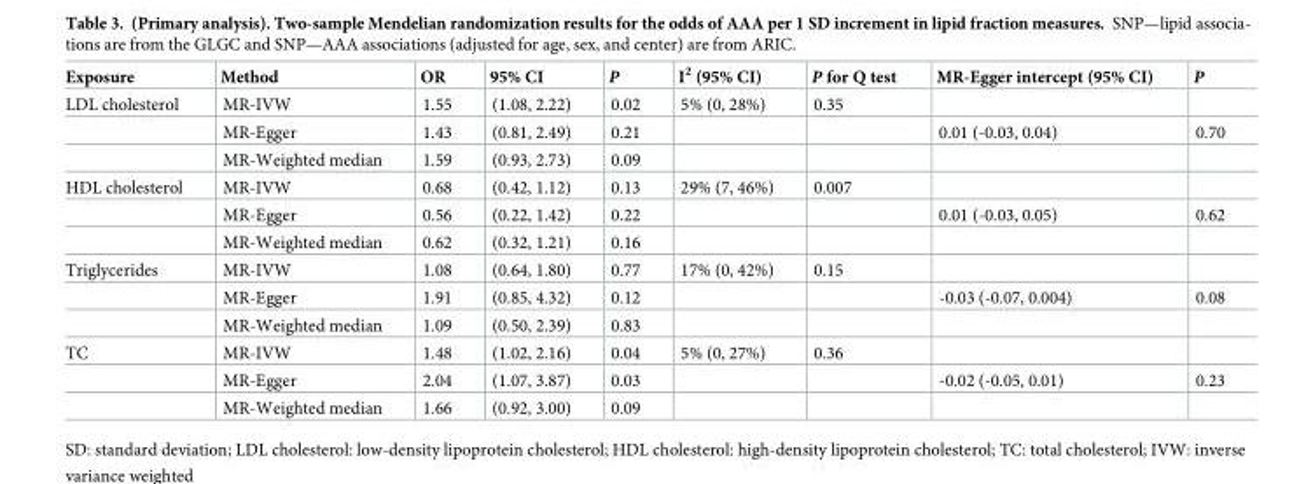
<table><thead><tr><td>Exposure</td><td>Method</td><td>OR</td><td>95% CI</td><td>P</td><td>I<sup>2</sup> (95% CI)</td><td>P for Q test</td><td>MR-Egger intercept (95% CI)</td><td>P</td></tr></thead><tbody><tr><td rowspan="3">LDL cholesterol</td><td>MR-IVW</td><td>1.55</td><td>(1.08, 2.22)</td><td>0.02</td><td>5% (0, 28%)</td><td>0.35</td><td></td><td></td></tr><tr><td>MR-Egger</td><td>1.43</td><td>(0.81, 2.49)</td><td>0.21</td><td></td><td></td><td>0.01 (-0.03, 0.04)</td><td>0.70</td></tr><tr><td>MR-Weighted median</td><td>1.59</td><td>(0.93, 2.73)</td><td>0.09</td><td></td><td></td><td></td><td></td></tr><tr><td rowspan="3">HDL cholesterol</td><td>MR-IVW</td><td>0.68</td><td>(0.42, 1.12)</td><td>0.13</td><td>29% (7, 46%)</td><td>0.007</td><td></td><td></td></tr><tr><td>MR-Egger</td><td>0.56</td><td>(0.22, 1.42)</td><td>0.22</td><td></td><td></td><td>0.01 (-0.03, 0.05)</td><td>0.62</td></tr><tr><td>MR-Weighted median</td><td>0.62</td><td>(0.32, 1.21)</td><td>0.16</td><td></td><td></td><td></td><td></td></tr><tr><td rowspan="3">Triglycerides</td><td>MR-IVW</td><td>1.08</td><td>(0.64, 1.80)</td><td>0.77</td><td>17% (0, 42%)</td><td>0.15</td><td></td><td></td></tr><tr><td>MR-Egger</td><td>1.91</td><td>(0.85, 4.32)</td><td>0.12</td><td></td><td></td><td>-0.03 (-0.07, 0.004)</td><td>0.08</td></tr><tr><td>MR-Weighted median</td><td>1.09</td><td>(0.50, 2.39)</td><td>0.83</td><td></td><td></td><td></td><td></td></tr><tr><td rowspan="3">TC</td><td>MR-IVW</td><td>1.48</td><td>(1.02, 2.16)</td><td>0.04</td><td>5% (0, 27%)</td><td>0.36</td><td></td><td></td></tr><tr><td>MR-Egger</td><td>2.04</td><td>(1.07, 3.87)</td><td>0.03</td><td></td><td></td><td>-0.02 (-0.05, 0.01)</td><td>0.23</td></tr><tr><td>MR-Weighted median</td><td>1.66</td><td>(0.92, 3.00)</td><td>0.09</td><td></td><td></td><td></td><td></td></tr></tbody></table>